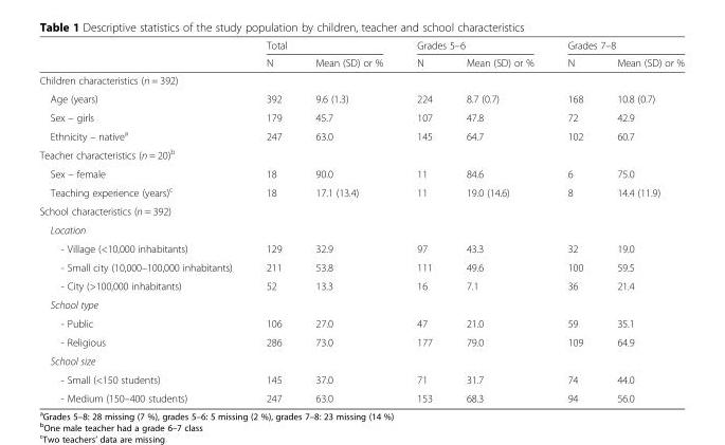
<table><thead><tr><td rowspan="2"></td><td colspan="2">Total</td><td colspan="2">Grades 5–6</td><td colspan="2">Grades 7–8</td></tr><tr><td>N</td><td>Mean (SD) or %</td><td>N</td><td>Mean (SD) or %</td><td>N</td><td>Mean (SD) or %</td></tr></thead><tbody><tr><td colspan="7">Children characteristics (n = 392)</td></tr><tr><td>Age (years)</td><td>392</td><td>9.6 (1.3)</td><td>224</td><td>8.7 (0.7)</td><td>168</td><td>10.8 (0.7)</td></tr><tr><td>Sex – girls</td><td>179</td><td>45.7</td><td>107</td><td>47.8</td><td>72</td><td>42.9</td></tr><tr><td>Ethnicity – native<sup>a</sup></td><td>247</td><td>63.0</td><td>145</td><td>64.7</td><td>102</td><td>60.7</td></tr><tr><td colspan="7">Teacher characteristics (n = 20)<sup>b</sup></td></tr><tr><td>Sex – female</td><td>18</td><td>90.0</td><td>11</td><td>84.6</td><td>6</td><td>75.0</td></tr><tr><td>Teaching experience (years)<sup>c</sup></td><td>18</td><td>17.1 (13.4)</td><td>11</td><td>19.0 (14.6)</td><td>8</td><td>14.4 (11.9)</td></tr><tr><td colspan="7">School characteristics (n = 392)</td></tr><tr><td colspan="7">Location</td></tr><tr><td>- Village (&lt;10,000 inhabitants)</td><td>129</td><td>32.9</td><td>97</td><td>43.3</td><td>32</td><td>19.0</td></tr><tr><td>- Small city (10,000–100,000 inhabitants)</td><td>211</td><td>53.8</td><td>111</td><td>49.6</td><td>100</td><td>59.5</td></tr><tr><td>- City (&gt;100,000 inhabitants)</td><td>52</td><td>13.3</td><td>16</td><td>7.1</td><td>36</td><td>21.4</td></tr><tr><td colspan="7">School type</td></tr><tr><td>- Public</td><td>106</td><td>27.0</td><td>47</td><td>21.0</td><td>59</td><td>35.1</td></tr><tr><td>- Religious</td><td>286</td><td>73.0</td><td>177</td><td>79.0</td><td>109</td><td>64.9</td></tr><tr><td colspan="7">School size</td></tr><tr><td>- Small (&lt;150 students)</td><td>145</td><td>37.0</td><td>71</td><td>31.7</td><td>74</td><td>44.0</td></tr><tr><td>- Medium (150–400 students)</td><td>247</td><td>63.0</td><td>153</td><td>68.3</td><td>94</td><td>56.0</td></tr></tbody></table>